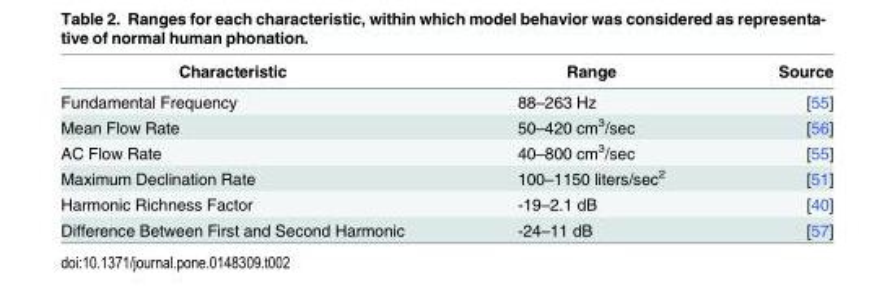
<table><thead><tr><td>Characteristic</td><td>Range</td><td>Source</td></tr></thead><tbody><tr><td>Fundamental Frequency</td><td>88–263 Hz</td><td>[55]</td></tr><tr><td>Mean Flow Rate</td><td>50–420 cm<sup>3</sup>/sec</td><td>[56]</td></tr><tr><td>AC Flow Rate</td><td>40–800 cm<sup>3</sup>/sec</td><td>[55]</td></tr><tr><td>Maximum Declination Rate</td><td>100–1150 liters/sec<sup>2</sup></td><td>[51]</td></tr><tr><td>Harmonic Richness Factor</td><td>-19–2.1 dB</td><td>[40]</td></tr><tr><td>Difference Between First and Second Harmonic</td><td>-24–11 dB</td><td>[57]</td></tr></tbody></table>